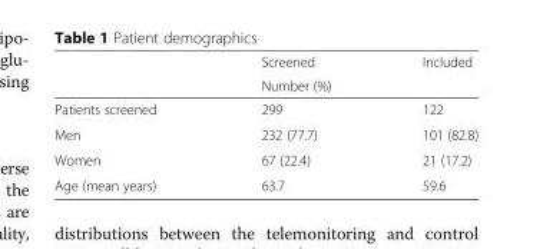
<table><thead><tr><td rowspan="2"></td><td>Screened</td><td>Included</td></tr><tr><td colspan="2">Number (%)</td></tr></thead><tbody><tr><td>Patients screened</td><td>299</td><td>122</td></tr><tr><td>Men</td><td>232 (77.7)</td><td>101 (82.8)</td></tr><tr><td>Women</td><td>67 (22.4)</td><td>21 (17.2)</td></tr><tr><td>Age (mean years)</td><td>63.7</td><td>59.6</td></tr></tbody></table>